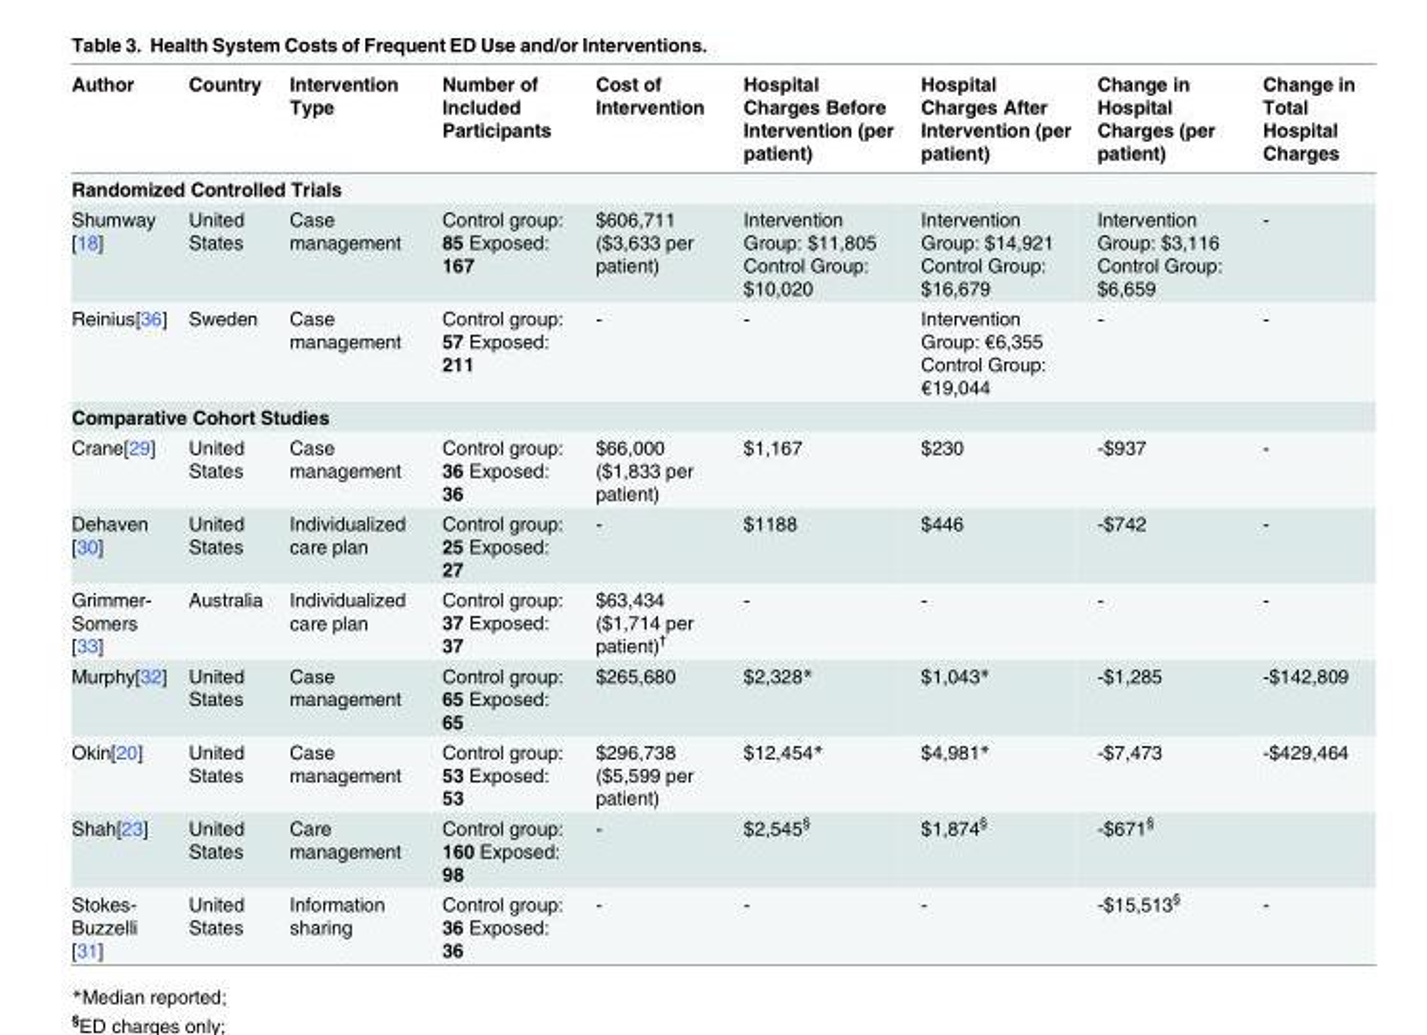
<table><thead><tr><td>Author</td><td>Country</td><td>Intervention Type</td><td>Number of Included Participants</td><td>Cost of Intervention</td><td>Hospital Charges Before Intervention (per patient)</td><td>Hospital Charges After Intervention (per patient)</td><td>Change in Hospital Charges (per patient)</td><td>Change in Total Hospital Charges</td></tr></thead><tbody><tr><td colspan="9">Randomized Controlled Trials</td></tr><tr><td>Shumway [18]</td><td>United States</td><td>Case management</td><td>Control group: 85 Exposed: 167</td><td>$606,711 ($3,633 per patient)</td><td>Intervention Group: $11,805 Control Group: $10,020</td><td>Intervention Group: $14,921 Control Group: $16,679</td><td>Intervention Group: $3,116 Control Group: $6,659</td><td>-</td></tr><tr><td>Reinius[36]</td><td>Sweden</td><td>Case management</td><td>Control group: 57 Exposed: 211</td><td>-</td><td>-</td><td>Intervention Group: €6,355 Control Group: €19,044</td><td>-</td><td>-</td></tr><tr><td colspan="9">Comparative Cohort Studies</td></tr><tr><td>Crane[29]</td><td>United States</td><td>Case management</td><td>Control group: 36 Exposed: 36</td><td>$66,000 ($1,833 per patient)</td><td>$1,167</td><td>$230</td><td>-$937</td><td>-</td></tr><tr><td>Dehaven [30]</td><td>United States</td><td>Individualized care plan</td><td>Control group: 25 Exposed: 27</td><td>-</td><td>$1188</td><td>$446</td><td>-$742</td><td>-</td></tr><tr><td>Grimmer- Somers [33]</td><td>Australia</td><td>Individualized care plan</td><td>Control group: 37 Exposed: 37</td><td>$63,434 ($1,714 per patient)<sup>†</sup></td><td>-</td><td>-</td><td>-</td><td>-</td></tr><tr><td>Murphy[32]</td><td>United States</td><td>Case management</td><td>Control group: 65 Exposed: 65</td><td>$265,680</td><td>$2,328*</td><td>$1,043*</td><td>-$1,285</td><td>-$142,809</td></tr><tr><td>Okin[20]</td><td>United States</td><td>Case management</td><td>Control group: 53 Exposed: 53</td><td>$296,738 ($5,599 per patient)</td><td>$12,454*</td><td>$4,981*</td><td>-$7,473</td><td>-$429,464</td></tr><tr><td>Shah[23]</td><td>United States</td><td>Care management</td><td>Control group: 160 Exposed: 98</td><td>-</td><td>$2,545<sup>§</sup></td><td>$1,874<sup>§</sup></td><td>-$671<sup>§</sup></td><td></td></tr><tr><td>Stokes- Buzzelli [31]</td><td>United States</td><td>Information sharing</td><td>Control group: 36 Exposed: 36</td><td>-</td><td>-</td><td>-</td><td>-$15,513<sup>§</sup></td><td>-</td></tr></tbody></table>